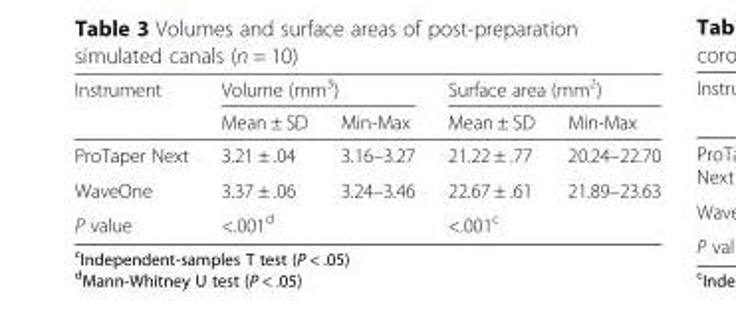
<table><thead><tr><td rowspan="2">Instrument</td><td colspan="2">Volume (mm<sup>3</sup>)</td><td colspan="2">Surface area (mm<sup>2</sup>)</td></tr><tr><td>Mean ± SD</td><td>Min-Max</td><td>Mean ± SD</td><td>Min-Max</td></tr></thead><tbody><tr><td>ProTaper Next</td><td>3.21 ± .04</td><td>3.16–3.27</td><td>21.22 ± .77</td><td>20.24–22.70</td></tr><tr><td>WaveOne</td><td>3.37 ± .06</td><td>3.24–3.46</td><td>22.67 ± .61</td><td>21.89–23.63</td></tr><tr><td>P value</td><td colspan="2">&lt;.001<sup>d</sup></td><td colspan="2">&lt;.001<sup>c</sup></td></tr></tbody></table>